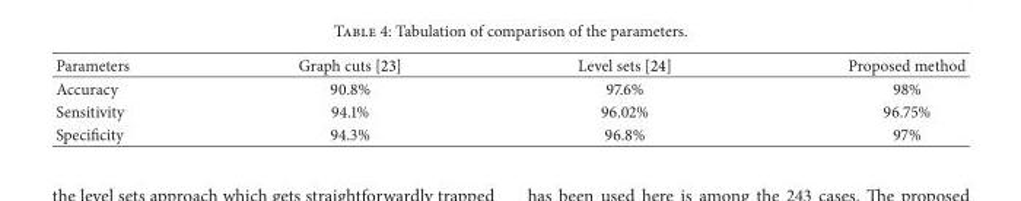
<table><thead><tr><td>Parameters</td><td>Graph cuts [23]</td><td>Level sets [24]</td><td>Proposed method</td></tr></thead><tbody><tr><td>Accuracy</td><td>90.8%</td><td>97.6%</td><td>98%</td></tr><tr><td>Sensitivity</td><td>94.1%</td><td>96.02%</td><td>96.75%</td></tr><tr><td>Specificity</td><td>94.3%</td><td>96.8%</td><td>97%</td></tr></tbody></table>